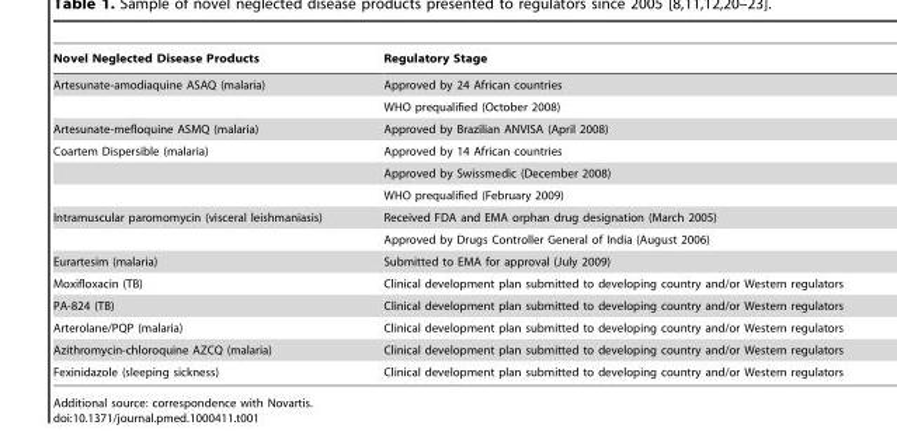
<table><thead><tr><td>Novel Neglected Disease Products</td><td>Regulatory Stage</td></tr></thead><tbody><tr><td rowspan="2">Artesunate-amodiaquine ASAQ (malaria)</td><td>Approved by 24 African countries</td></tr><tr><td>WHO prequalified (October 2008)</td></tr><tr><td>Artesunate-mefloquine ASMQ (malaria)</td><td>Approved by Brazilian ANVISA (April 2008)</td></tr><tr><td rowspan="3">Coartem Dispersible (malaria)</td><td>Approved by 14 African countries</td></tr><tr><td>Approved by Swissmedic (December 2008)</td></tr><tr><td>WHO prequalified (February 2009)</td></tr><tr><td rowspan="2">Intramuscular paromomycin (visceral leishmaniasis)</td><td>Received FDA and EMA orphan drug designation (March 2005)</td></tr><tr><td>Approved by Drugs Controller General of India (August 2006)</td></tr><tr><td>Eurartesim (malaria)</td><td>Submitted to EMA for approval (July 2009)</td></tr><tr><td>Moxifloxacin (TB)</td><td>Clinical development plan submitted to developing country and/or Western regulators</td></tr><tr><td>PA-824 (TB)</td><td>Clinical development plan submitted to developing country and/or Western regulators</td></tr><tr><td>Arterolane/PQP (malaria)</td><td>Clinical development plan submitted to developing country and/or Western regulators</td></tr><tr><td>Azithromycin-chloroquine AZCQ (malaria)</td><td>Clinical development plan submitted to developing country and/or Western regulators</td></tr><tr><td>Fexinidazole (sleeping sickness)</td><td>Clinical development plan submitted to developing country and/or Western regulators</td></tr></tbody></table>